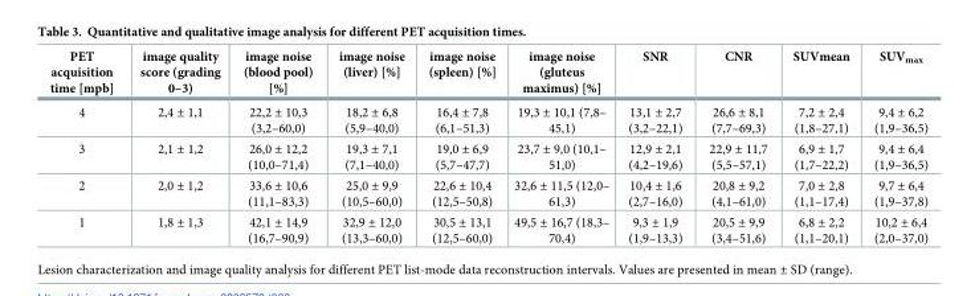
<table><thead><tr><td>PET acquisition time [mpb]</td><td>image quality score (grading 0–3)</td><td>image noise (blood pool) [%]</td><td>image noise (liver) [%]</td><td>image noise (spleen) [%]</td><td>image noise (gluteus maximus) [%]</td><td>SNR</td><td>CNR</td><td>SUVmean</td><td>SUV<sub>max</sub></td></tr></thead><tbody><tr><td>4</td><td>2,4 ± 1,1</td><td>22,2 ± 10,3 (3,2–60,0)</td><td>18,2 ± 6,8 (5,9–40,0)</td><td>16,4 ± 7,8 (6,1–51,3)</td><td>19,3 ± 10,1 (7,8– 45,1)</td><td>13,1 ± 2,7 (3,2–22,1)</td><td>26,6 ± 8,1 (7,7–69,3)</td><td>7,2 ± 2,4 (1,8–27,1)</td><td>9,4 ± 6,2 (1,9–36,5)</td></tr><tr><td>3</td><td>2,1 ± 1,2</td><td>26,0 ± 12,2 (10,0–71,4)</td><td>19,3 ± 7,1 (7,1–40,0)</td><td>19,0 ± 6,9 (5,7–47,7)</td><td>23,7 ± 9,0 (10,1– 51,0)</td><td>12,9 ± 2,1 (4,2–19,6)</td><td>22,9 ± 11,7 (5,5–57,1)</td><td>6,9 ± 1,7 (1,7–22,2)</td><td>9,4 ± 6,4 (1,9–36,5)</td></tr><tr><td>2</td><td>2,0 ± 1,2</td><td>33,6 ± 10,6 (11,1–83,3)</td><td>25,0 ± 9,9 (10,5–60,0)</td><td>22,6 ± 10,4 (12,5–50,8)</td><td>32,6 ± 11,5 (12,0– 61,3)</td><td>10,4 ± 1,6 (2,7–16,0)</td><td>20,8 ± 9,2 (4,1–61,0)</td><td>7,0 ± 2,8 (1,1–17,4)</td><td>9,7 ± 6,4 (1,9–37,8)</td></tr><tr><td>1</td><td>1,8 ± 1,3</td><td>42,1 ± 14,9 (16,7–90,9)</td><td>32,9 ± 12,0 (13,3–60,0)</td><td>30,5 ± 13,1 (12,5–60,0)</td><td>49,5 ± 16,7 (18,3– 70,4)</td><td>9,3 ± 1,9 (1,9–13,3)</td><td>20,5 ± 9,9 (3,4–51,6)</td><td>6,8 ± 2,2 (1,1–20,1)</td><td>10,2 ± 6,4 (2,0–37,0)</td></tr></tbody></table>